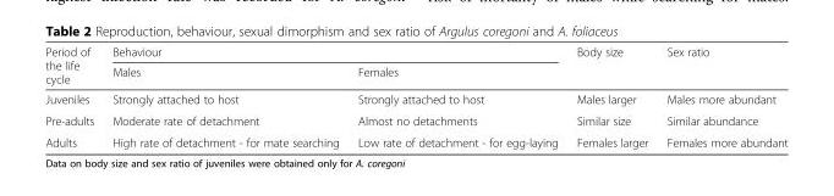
<table><thead><tr><td rowspan="2">Period of the life cycle</td><td colspan="2">Behaviour</td><td rowspan="2">Body size</td><td rowspan="2">Sex ratio</td></tr><tr><td>Males</td><td>Females</td></tr></thead><tbody><tr><td>Juveniles</td><td>Strongly attached to host</td><td>Strongly attached to host</td><td>Males larger</td><td>Males more abundant</td></tr><tr><td>Pre-adults</td><td>Moderate rate of detachment</td><td>Almost no detachments</td><td>Similar size</td><td>Similar abundance</td></tr><tr><td>Adults</td><td>High rate of detachment - for mate searching</td><td>Low rate of detachment - for egg-laying</td><td>Females larger</td><td>Females more abundant</td></tr></tbody></table>